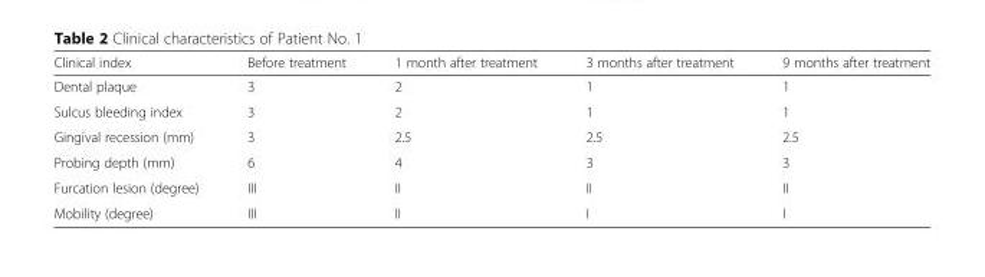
<table><thead><tr><td>Clinical index</td><td>Before treatment</td><td>1 month after treatment</td><td>3 months after treatment</td><td>9 months after treatment</td></tr></thead><tbody><tr><td>Dental plaque</td><td>3</td><td>2</td><td>1</td><td>1</td></tr><tr><td>Sulcus bleeding index</td><td>3</td><td>2</td><td>1</td><td>1</td></tr><tr><td>Gingival recession (mm)</td><td>3</td><td>2.5</td><td>2.5</td><td>2.5</td></tr><tr><td>Probing depth (mm)</td><td>6</td><td>4</td><td>3</td><td>3</td></tr><tr><td>Furcation lesion (degree)</td><td>III</td><td>II</td><td>II</td><td>II</td></tr><tr><td>Mobility (degree)</td><td>III</td><td>II</td><td>I</td><td>I</td></tr></tbody></table>